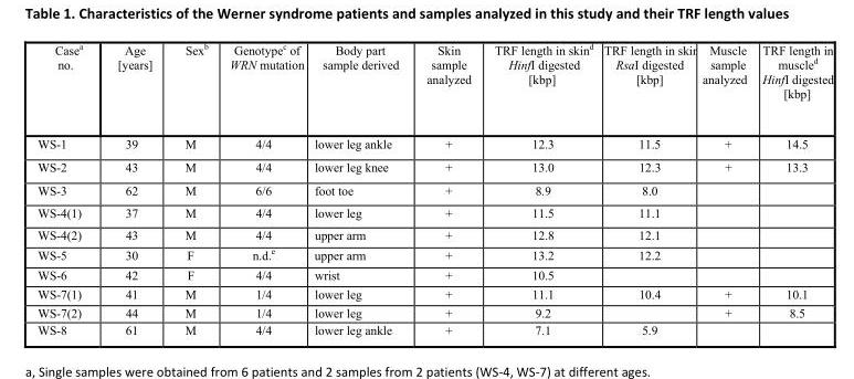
<table><thead><tr><td>Case<sup>a</sup> no.</td><td>Age [years]</td><td>Sex<sup>b</sup></td><td>Genotype<sup>c</sup> of WRN mutation</td><td>Body part sample derived</td><td>Skin sample analyzed</td><td>TRF length in skin<sup>d</sup> HinfI digested [kbp]</td><td>TRF length in skin RsaI digested [kbp]</td><td>Muscle sample analyzed</td><td>TRF length in muscle<sup>d</sup> HinfI digested [kbp]</td></tr></thead><tbody><tr><td>WS-1</td><td>39</td><td>M</td><td>4/4</td><td>lower leg ankle</td><td>+</td><td>12.3</td><td>11.5</td><td>+</td><td>14.5</td></tr><tr><td>WS-2</td><td>43</td><td>M</td><td>4/4</td><td>lower leg knee</td><td>+</td><td>13.0</td><td>12.3</td><td>+</td><td>13.3</td></tr><tr><td>WS-3</td><td>62</td><td>M</td><td>6/6</td><td>foot toe</td><td>+</td><td>8.9</td><td>8.0</td><td></td><td></td></tr><tr><td>WS-4(1)</td><td>37</td><td>M</td><td>4/4</td><td>lower leg</td><td>+</td><td>11.5</td><td>11.1</td><td></td><td></td></tr><tr><td>WS-4(2)</td><td>43</td><td>M</td><td>4/4</td><td>upper arm</td><td>+</td><td>12.8</td><td>12.1</td><td></td><td></td></tr><tr><td>WS-5</td><td>30</td><td>F</td><td>n.d.<sup>e</sup></td><td>upper arm</td><td>+</td><td>13.2</td><td>12.2</td><td></td><td></td></tr><tr><td>WS-6</td><td>42</td><td>F</td><td>4/4</td><td>wrist</td><td>+</td><td>10.5</td><td></td><td></td><td></td></tr><tr><td>WS-7(1)</td><td>41</td><td>M</td><td>1/4</td><td>lower leg</td><td>+</td><td>11.1</td><td>10.4</td><td>+</td><td>10.1</td></tr><tr><td>WS-7(2)</td><td>44</td><td>M</td><td>1/4</td><td>lower leg</td><td>+</td><td>9.2</td><td></td><td>+</td><td>8.5</td></tr><tr><td>WS-8</td><td>61</td><td>M</td><td>4/4</td><td>lower leg ankle</td><td>+</td><td>7.1</td><td>5.9</td><td></td><td></td></tr></tbody></table>